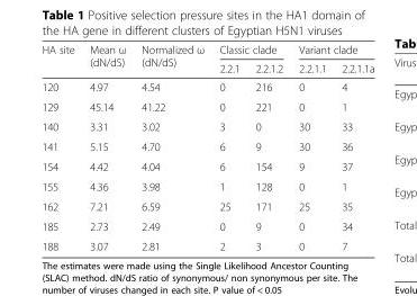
<table><thead><tr><td rowspan="2">HA site</td><td rowspan="2">Mean ω (dN/dS)</td><td rowspan="2">Normalized ω (dN/dS)</td><td colspan="2">Classic clade</td><td colspan="2">Variant clade</td></tr><tr><td>2.2.1</td><td>2.2.1.2</td><td>2.2.1.1</td><td>2.2.1.1a</td></tr></thead><tbody><tr><td>120</td><td>4.97</td><td>4.54</td><td>0</td><td>216</td><td>0</td><td>4</td></tr><tr><td>129</td><td>45.14</td><td>41.22</td><td>0</td><td>221</td><td>0</td><td>1</td></tr><tr><td>140</td><td>3.31</td><td>3.02</td><td>3</td><td>0</td><td>30</td><td>33</td></tr><tr><td>141</td><td>5.15</td><td>4.70</td><td>6</td><td>9</td><td>30</td><td>36</td></tr><tr><td>154</td><td>4.42</td><td>4.04</td><td>6</td><td>154</td><td>9</td><td>37</td></tr><tr><td>155</td><td>4.36</td><td>3.98</td><td>1</td><td>128</td><td>0</td><td>1</td></tr><tr><td>162</td><td>7.21</td><td>6.59</td><td>25</td><td>171</td><td>25</td><td>35</td></tr><tr><td>185</td><td>2.73</td><td>2.49</td><td>0</td><td>9</td><td>0</td><td>34</td></tr><tr><td>188</td><td>3.07</td><td>2.81</td><td>2</td><td>3</td><td>0</td><td>7</td></tr></tbody></table>